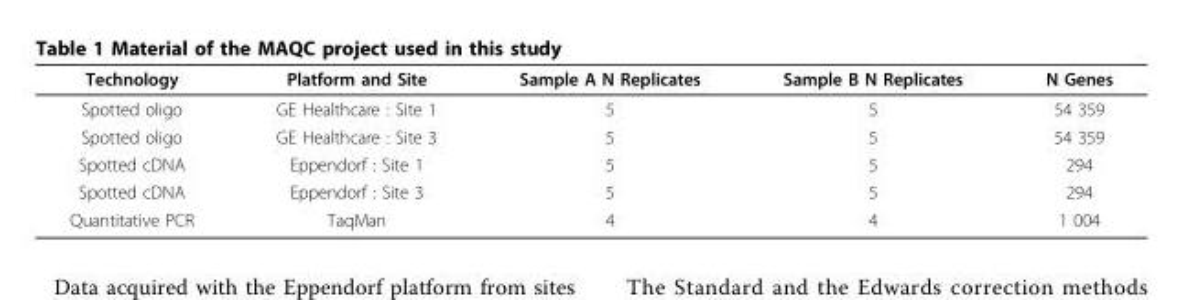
<table><thead><tr><td>Technology</td><td>Platform and Site</td><td>Sample A N Replicates</td><td>Sample B N Replicates</td><td>N Genes</td></tr></thead><tbody><tr><td>Spotted oligo</td><td>GE Healthcare : Site 1</td><td>5</td><td>5</td><td>54 359</td></tr><tr><td>Spotted oligo</td><td>GE Healthcare : Site 3</td><td>5</td><td>5</td><td>54 359</td></tr><tr><td>Spotted cDNA</td><td>Eppendorf : Site 1</td><td>5</td><td>5</td><td>294</td></tr><tr><td>Spotted cDNA</td><td>Eppendorf : Site 3</td><td>5</td><td>5</td><td>294</td></tr><tr><td>Quantitative PCR</td><td>TaqMan</td><td>4</td><td>4</td><td>1 004</td></tr></tbody></table>